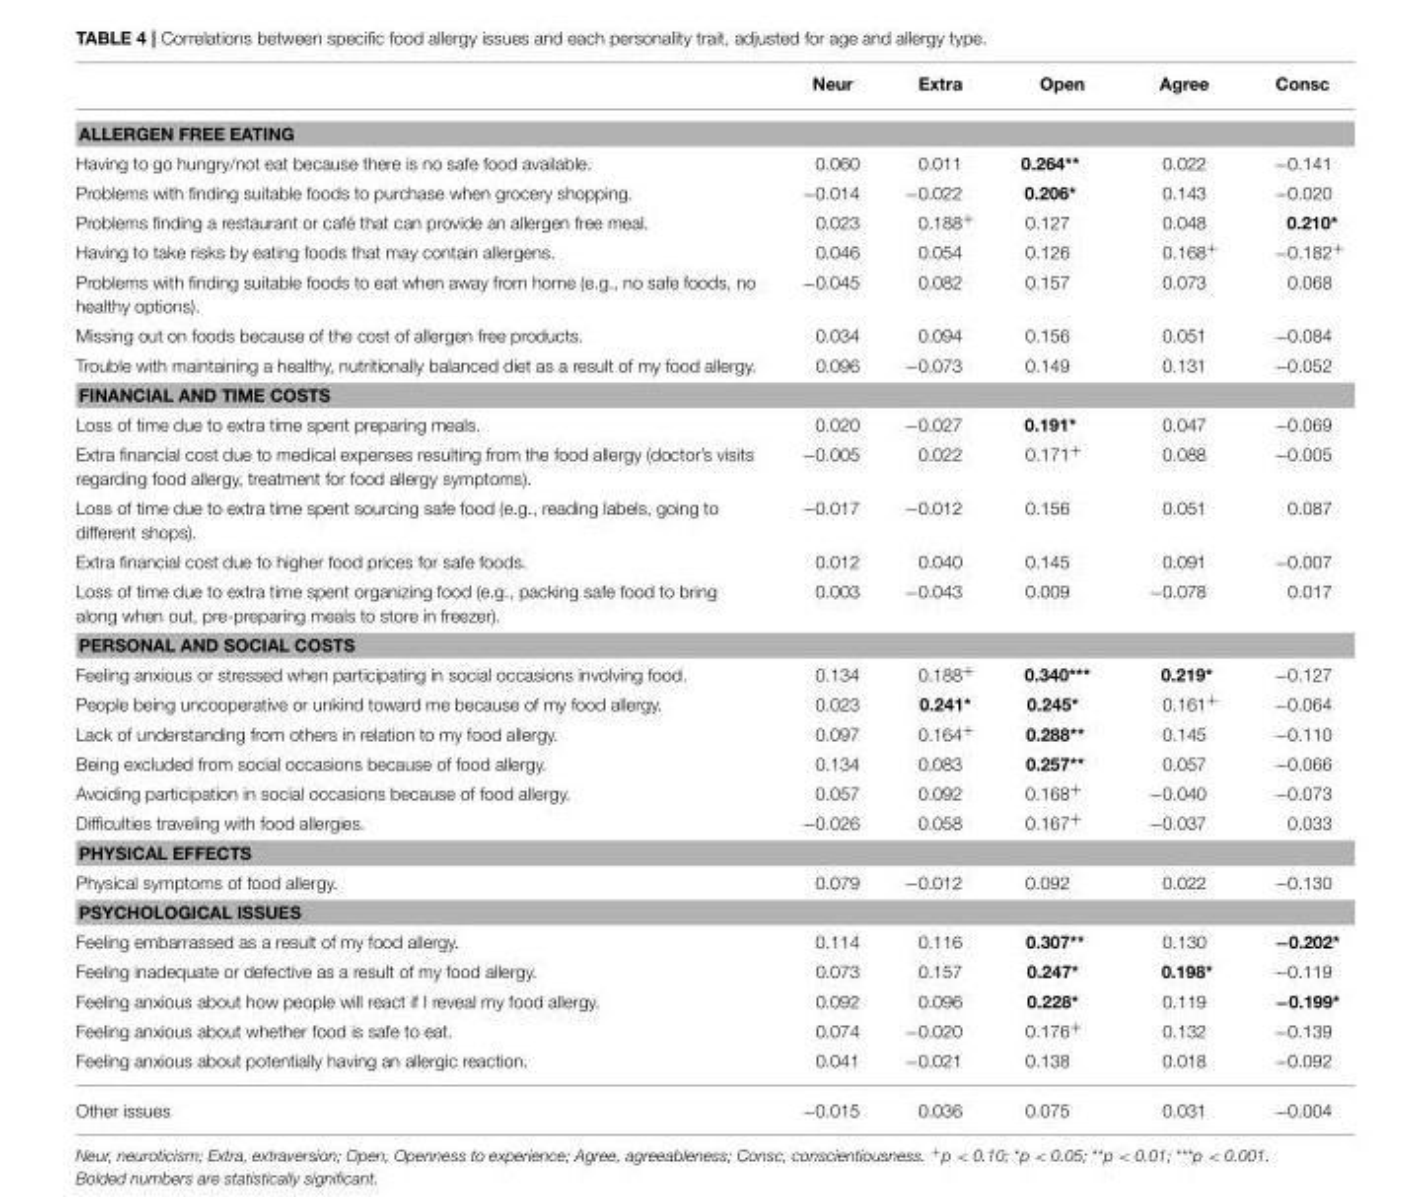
<table><thead><tr><td></td><td>Neur</td><td>Extra</td><td>Open</td><td>Agree</td><td>Consc</td></tr></thead><tbody><tr><td colspan="6">ALLERGEN FREE EATING</td></tr><tr><td>Having to go hungry/not eat because there is no safe food available.</td><td>0.060</td><td>0.011</td><td>0.264**</td><td>0.022</td><td>−0.141</td></tr><tr><td>Problems with finding suitable foods to purchase when grocery shopping.</td><td>−0.014</td><td>−0.022</td><td>0.206*</td><td>0.143</td><td>−0.020</td></tr><tr><td>Problems finding a restaurant or café that can provide an allergen free meal.</td><td>0.023</td><td>0.188<sup>+</sup></td><td>0.127</td><td>0.048</td><td>0.210*</td></tr><tr><td>Having to take risks by eating foods that may contain allergens.</td><td>0.046</td><td>0.054</td><td>0.126</td><td>0.168<sup>+</sup></td><td>−0.182<sup>+</sup></td></tr><tr><td>Problems with finding suitable foods to eat when away from home (e.g., no safe foods, no healthy options).</td><td>−0.045</td><td>0.082</td><td>0.157</td><td>0.073</td><td>0.068</td></tr><tr><td>Missing out on foods because of the cost of allergen free products.</td><td>0.034</td><td>0.094</td><td>0.156</td><td>0.051</td><td>−0.084</td></tr><tr><td>Trouble with maintaining a healthy, nutritionally balanced diet as a result of my food allergy.</td><td>0.096</td><td>−0.073</td><td>0.149</td><td>0.131</td><td>−0.052</td></tr><tr><td colspan="6">FINANCIAL AND TIME COSTS</td></tr><tr><td>Loss of time due to extra time spent preparing meals.</td><td>0.020</td><td>−0.027</td><td>0.191*</td><td>0.047</td><td>−0.069</td></tr><tr><td>Extra financial cost due to medical expenses resulting from the food allergy (doctor’s visits regarding food allergy, treatment for food allergy symptoms).</td><td>−0.005</td><td>0.022</td><td>0.171<sup>+</sup></td><td>0.088</td><td>−0.005</td></tr><tr><td>Loss of time due to extra time spent sourcing safe food (e.g., reading labels, going to different shops).</td><td>−0.017</td><td>−0.012</td><td>0.156</td><td>0.051</td><td>0.087</td></tr><tr><td>Extra financial cost due to higher food prices for safe foods.</td><td>0.012</td><td>0.040</td><td>0.145</td><td>0.091</td><td>−0.007</td></tr><tr><td>Loss of time due to extra time spent organizing food (e.g., packing safe food to bring along when out, pre-preparing meals to store in freezer).</td><td>0.003</td><td>−0.043</td><td>0.009</td><td>−0.078</td><td>0.017</td></tr><tr><td colspan="6">PERSONAL AND SOCIAL COSTS</td></tr><tr><td>Feeling anxious or stressed when participating in social occasions involving food.</td><td>0.134</td><td>0.188<sup>+</sup></td><td>0.340***</td><td>0.219*</td><td>−0.127</td></tr><tr><td>People being uncooperative or unkind toward me because of my food allergy.</td><td>0.023</td><td>0.241*</td><td>0.245*</td><td>0.161<sup>+</sup></td><td>−0.064</td></tr><tr><td>Lack of understanding from others in relation to my food allergy.</td><td>0.097</td><td>0.164<sup>+</sup></td><td>0.288**</td><td>0.145</td><td>−0.110</td></tr><tr><td>Being excluded from social occasions because of food allergy.</td><td>0.134</td><td>0.083</td><td>0.257**</td><td>0.057</td><td>−0.066</td></tr><tr><td>Avoiding participation in social occasions because of food allergy.</td><td>0.057</td><td>0.092</td><td>0.168<sup>+</sup></td><td>−0.040</td><td>−0.073</td></tr><tr><td>Difficulties traveling with food allergies.</td><td>−0.026</td><td>0.058</td><td>0.167<sup>+</sup></td><td>−0.037</td><td>0.033</td></tr><tr><td colspan="6">PHYSICAL EFFECTS</td></tr><tr><td>Physical symptoms of food allergy.</td><td>0.079</td><td>−0.012</td><td>0.092</td><td>0.022</td><td>−0.130</td></tr><tr><td colspan="6">PSYCHOLOGICAL ISSUES</td></tr><tr><td>Feeling embarrassed as a result of my food allergy.</td><td>0.114</td><td>0.116</td><td>0.307**</td><td>0.130</td><td>−0.202*</td></tr><tr><td>Feeling inadequate or defective as a result of my food allergy.</td><td>0.073</td><td>0.157</td><td>0.247*</td><td>0.198*</td><td>−0.119</td></tr><tr><td>Feeling anxious about how people will react if I reveal my food allergy.</td><td>0.092</td><td>0.096</td><td>0.228*</td><td>0.119</td><td>−0.199*</td></tr><tr><td>Feeling anxious about whether food is safe to eat.</td><td>0.074</td><td>−0.020</td><td>0.176<sup>+</sup></td><td>0.132</td><td>−0.139</td></tr><tr><td>Feeling anxious about potentially having an allergic reaction.</td><td>0.041</td><td>−0.021</td><td>0.138</td><td>0.018</td><td>−0.092</td></tr><tr><td>Other issues</td><td>−0.015</td><td>0.036</td><td>0.075</td><td>0.031</td><td>−0.004</td></tr></tbody></table>